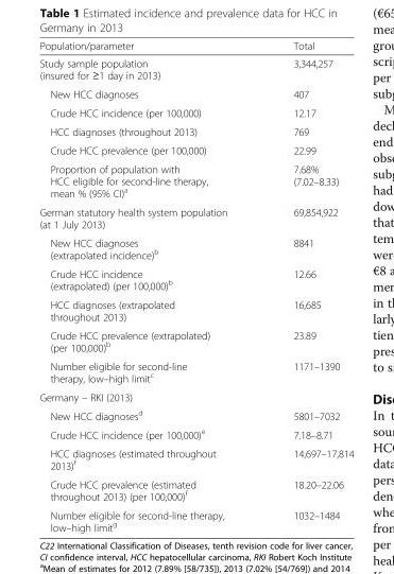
<table><thead><tr><td>Population/parameter</td><td>Total</td></tr></thead><tbody><tr><td>Study sample population (insured for ≥1 day in 2013)</td><td>3,344,257</td></tr><tr><td>New HCC diagnoses</td><td>407</td></tr><tr><td>Crude HCC incidence (per 100,000)</td><td>12.17</td></tr><tr><td>HCC diagnoses (throughout 2013)</td><td>769</td></tr><tr><td>Crude HCC prevalence (per 100,000)</td><td>22.99</td></tr><tr><td>Proportion of population with HCC eligible for second-line therapy, mean % (95% CI)<sup>a</sup></td><td>7.68% (7.02–8.33)</td></tr><tr><td>German statutory health system population (at 1 July 2013)</td><td>69,854,922</td></tr><tr><td>New HCC diagnoses (extrapolated incidence)<sup>b</sup></td><td>8841</td></tr><tr><td>Crude HCC incidence (extrapolated) (per 100,000)<sup>b</sup></td><td>12.66</td></tr><tr><td>HCC diagnoses (extrapolated throughout 2013)</td><td>16,685</td></tr><tr><td>Crude HCC prevalence (extrapolated) (per 100,000)<sup>b</sup></td><td>23.89</td></tr><tr><td>Number eligible for second-line therapy, low–high limit<sup>c</sup></td><td>1171–1390</td></tr><tr><td colspan="2">Germany – RKI (2013)</td></tr><tr><td>New HCC diagnoses<sup>d</sup></td><td>5801–7032</td></tr><tr><td>Crude HCC incidence (per 100,000)<sup>e</sup></td><td>7.18–8.71</td></tr><tr><td>HCC diagnoses (estimated throughout 2013)<sup>f</sup></td><td>14,697–17,814</td></tr><tr><td>Crude HCC prevalence (estimated throughout 2013) (per 100,000)<sup>f</sup></td><td>18.20–22.06</td></tr><tr><td>Number eligible for second-line therapy, low–high limit<sup>g</sup></td><td>1032–1484</td></tr></tbody></table>